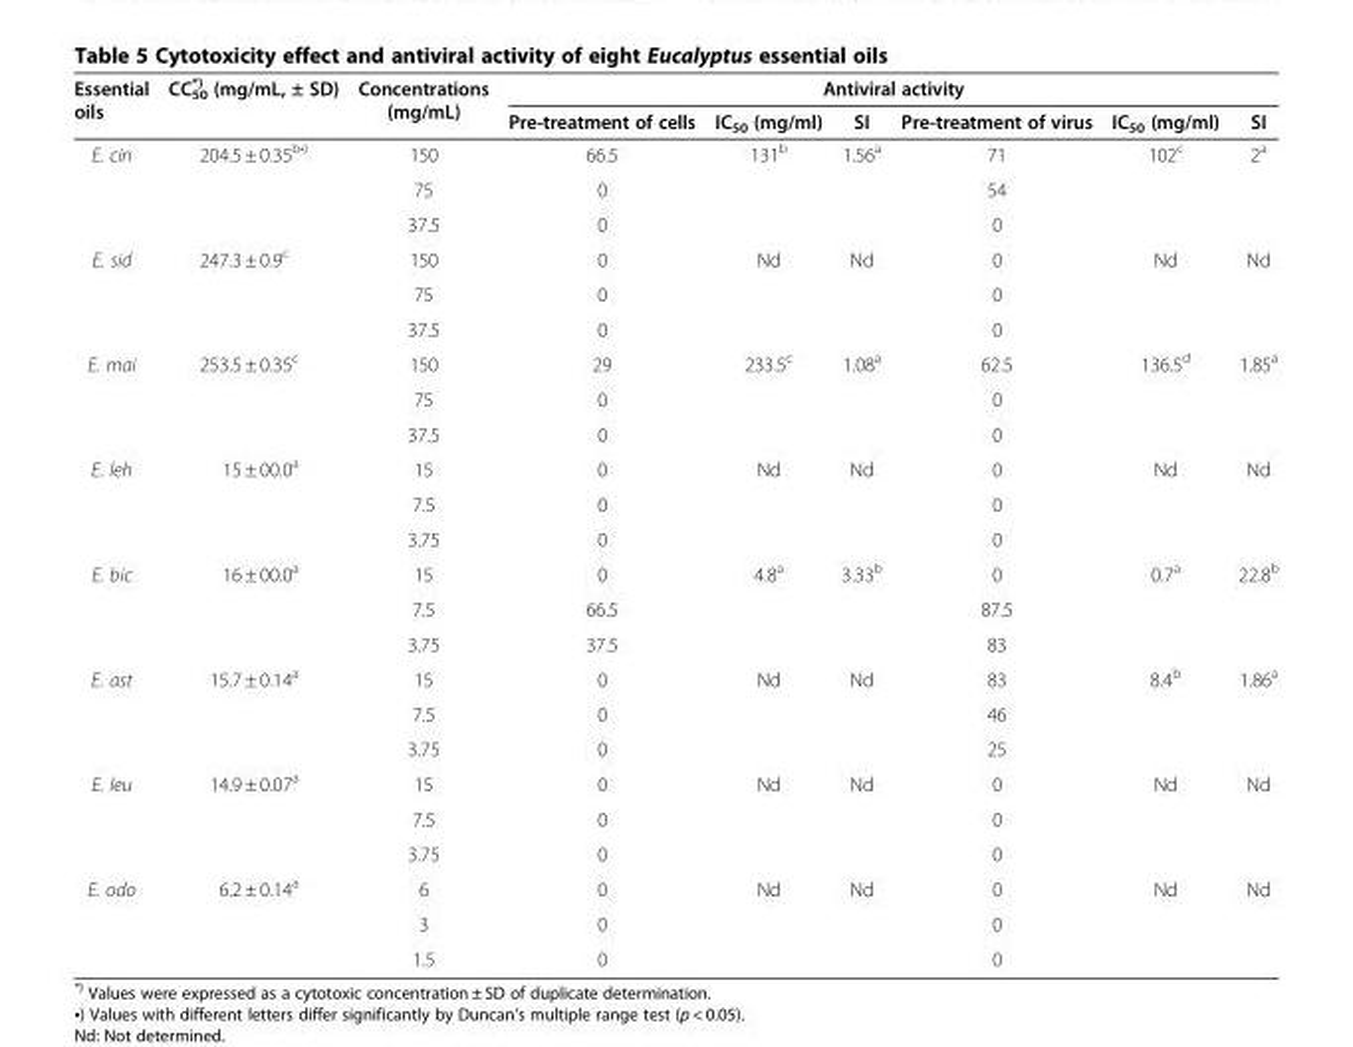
<table><thead><tr><td rowspan="2">Essential oils</td><td rowspan="2">СС<sub>50</sub> <sup>*)</sup> (mg/mL, ± SD)</td><td rowspan="2">Concentrations (mg/mL)</td><td colspan="6">Antiviral activity</td></tr><tr><td>Pre-treatment of cells</td><td>IC<sub>50</sub> (mg/ml)</td><td>SI</td><td>Pre-treatment of virus</td><td>IC<sub>50</sub> (mg/ml)</td><td>SI</td></tr></thead><tbody><tr><td rowspan="3">E. cin</td><td rowspan="3">204.5 ± 0.35<sup>b•)</sup></td><td>150</td><td>66.5</td><td rowspan="3">131<sup>b</sup></td><td rowspan="3">1.56<sup>a</sup></td><td>71</td><td rowspan="3">102<sup>c</sup></td><td rowspan="3">2<sup>a</sup></td></tr><tr><td>75</td><td>0</td><td>54</td></tr><tr><td>37.5</td><td>0</td><td>0</td></tr><tr><td rowspan="3">E. sid</td><td rowspan="3">247.3 ± 0.9<sup>c</sup></td><td>150</td><td>0</td><td rowspan="3">Nd</td><td rowspan="3">Nd</td><td>0</td><td rowspan="3">Nd</td><td rowspan="3">Nd</td></tr><tr><td>75</td><td>0</td><td>0</td></tr><tr><td>37.5</td><td>0</td><td>0</td></tr><tr><td rowspan="3">E. mai</td><td rowspan="3">253.5 ± 0.35<sup>c</sup></td><td>150</td><td>29</td><td rowspan="3">233.5<sup>c</sup></td><td rowspan="3">1.08<sup>a</sup></td><td>62.5</td><td rowspan="3">136.5<sup>d</sup></td><td rowspan="3">1.85<sup>a</sup></td></tr><tr><td>75</td><td>0</td><td>0</td></tr><tr><td>37.5</td><td>0</td><td>0</td></tr><tr><td rowspan="3">E. leh</td><td rowspan="3">15 ± 00.0<sup>a</sup></td><td>15</td><td>0</td><td rowspan="3">Nd</td><td rowspan="3">Nd</td><td>0</td><td rowspan="3">Nd</td><td rowspan="3">Nd</td></tr><tr><td>7.5</td><td>0</td><td>0</td></tr><tr><td>3.75</td><td>0</td><td>0</td></tr><tr><td rowspan="3">E. bic</td><td rowspan="3">16 ± 00.0<sup>a</sup></td><td>15</td><td>0</td><td rowspan="3">4.8<sup>a</sup></td><td rowspan="3">3.33<sup>b</sup></td><td>0</td><td rowspan="3">0.7<sup>a</sup></td><td rowspan="3">22.8<sup>b</sup></td></tr><tr><td>7.5</td><td>66.5</td><td>87.5</td></tr><tr><td>3.75</td><td>37.5</td><td>83</td></tr><tr><td rowspan="3">E. ast</td><td rowspan="3">15.7 ± 0.14<sup>a</sup></td><td>15</td><td>0</td><td rowspan="3">Nd</td><td rowspan="3">Nd</td><td>83</td><td rowspan="3">8.4<sup>b</sup></td><td rowspan="3">1.86<sup>a</sup></td></tr><tr><td>7.5</td><td>0</td><td>46</td></tr><tr><td>3.75</td><td>0</td><td>25</td></tr><tr><td rowspan="3">E. leu</td><td rowspan="3">14.9 ± 0.07<sup>a</sup></td><td>15</td><td>0</td><td rowspan="3">Nd</td><td rowspan="3">Nd</td><td>0</td><td rowspan="3">Nd</td><td rowspan="3">Nd</td></tr><tr><td>7.5</td><td>0</td><td>0</td></tr><tr><td>3.75</td><td>0</td><td>0</td></tr><tr><td rowspan="3">E. odo</td><td rowspan="2">6.2 ± 0.14<sup>a</sup></td><td>6</td><td>0</td><td rowspan="2">Nd</td><td rowspan="2">Nd</td><td>0</td><td rowspan="2">Nd</td><td rowspan="2">Nd</td></tr><tr><td>3</td><td>0</td><td>0</td></tr><tr><td></td><td>1.5</td><td>0</td><td></td><td></td><td>0</td><td></td><td></td></tr></tbody></table>